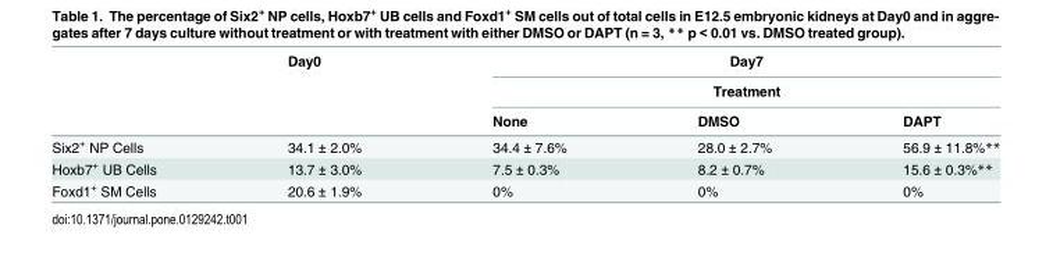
<table><thead><tr><td rowspan="3"></td><td rowspan="3">Day0</td><td rowspan="2" colspan="3">Day7 Treatment</td></tr><tr></tr><tr><td>None</td><td>DMSO</td><td>DAPT</td></tr></thead><tbody><tr><td>Six2<sup>+</sup> NP Cells</td><td>34.1 ± 2.0%</td><td>34.4 ± 7.6%</td><td>28.0 ± 2.7%</td><td>56.9 ± 11.8%**</td></tr><tr><td>Hoxb7<sup>+</sup> UB Cells</td><td>13.7 ± 3.0%</td><td>7.5 ± 0.3%</td><td>8.2 ± 0.7%</td><td>15.6 ± 0.3%**</td></tr><tr><td>Foxd1<sup>+</sup> SM Cells</td><td>20.6 ± 1.9%</td><td>0%</td><td>0%</td><td>0%</td></tr></tbody></table>